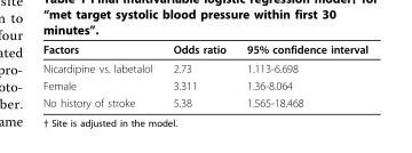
<table><thead><tr><td>Factors</td><td>Odds ratio</td><td>95% confidence interval</td></tr></thead><tbody><tr><td>Nicardipine vs. labetalol</td><td>2.73</td><td>1.113-6.698</td></tr><tr><td>Female</td><td>3.311</td><td>1.36-8.064</td></tr><tr><td>No history of stroke</td><td>5.38</td><td>1.565-18.468</td></tr></tbody></table>